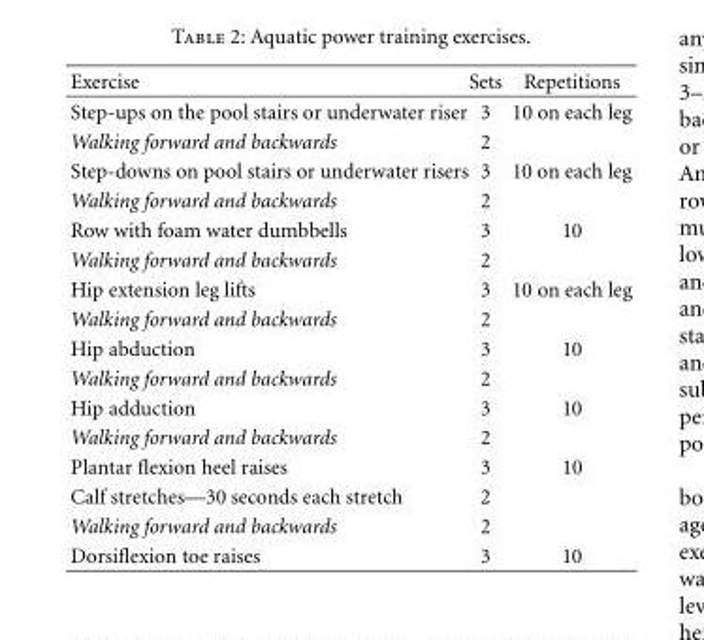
<table><thead><tr><td>Exercise</td><td>Sets</td><td>Repetitions</td></tr></thead><tbody><tr><td>Step-ups on the pool stairs or underwater riser</td><td>3</td><td>10 on each leg</td></tr><tr><td>Walking forward and backwards</td><td>2</td><td></td></tr><tr><td>Step-downs on pool stairs or underwater risers</td><td>3</td><td>10 on each leg</td></tr><tr><td>Walking forward and backwards</td><td>2</td><td></td></tr><tr><td>Row with foam water dumbbells</td><td>3</td><td>10</td></tr><tr><td>Walking forward and backwards</td><td>2</td><td></td></tr><tr><td>Hip extension leg lifts</td><td>3</td><td>10 on each leg</td></tr><tr><td>Walking forward and backwards</td><td>2</td><td></td></tr><tr><td>Hip abduction</td><td>3</td><td>10</td></tr><tr><td>Walking forward and backwards</td><td>2</td><td></td></tr><tr><td>Hip adduction</td><td>3</td><td>10</td></tr><tr><td>Walking forward and backwards</td><td>2</td><td></td></tr><tr><td>Plantar flexion heel raises</td><td>3</td><td>10</td></tr><tr><td>Calf stretches—30 seconds each stretch</td><td>2</td><td></td></tr><tr><td>Walking forward and backwards</td><td>2</td><td></td></tr><tr><td>Dorsiflexion toe raises</td><td>3</td><td>10</td></tr></tbody></table>